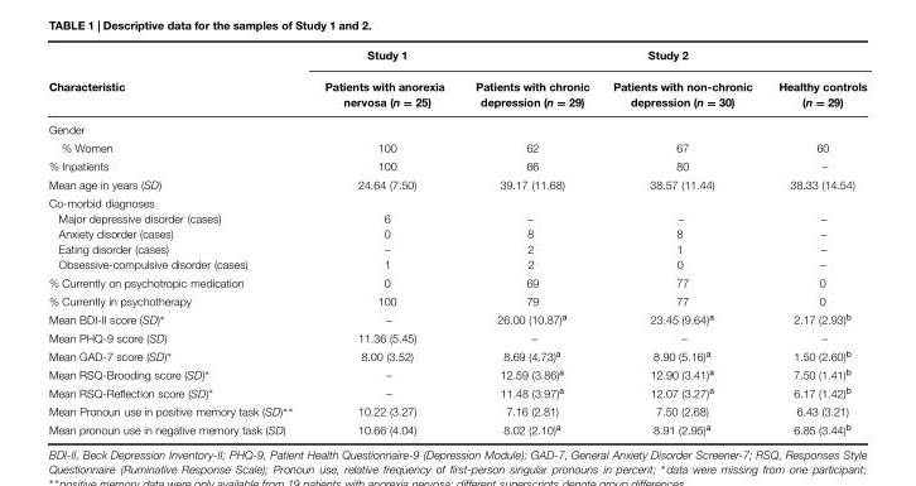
<table><thead><tr><td rowspan="2">Characteristic</td><td rowspan="2">Study 1 Patients with anorexia nervosa (n = 25)</td><td colspan="3">Study 2</td></tr><tr><td>Patients with chronic depression (n = 29)</td><td>Patients with non-chronic depression (n = 30)</td><td>Healthy controls (n = 29)</td></tr></thead><tbody><tr><td colspan="5">Gender</td></tr><tr><td>% Women</td><td>100</td><td>62</td><td>67</td><td>60</td></tr><tr><td>% Inpatients</td><td>100</td><td>66</td><td>80</td><td>–</td></tr><tr><td>Mean age in years (SD)</td><td>24.64 (7.50)</td><td>39.17 (11.68)</td><td>38.57 (11.44)</td><td>38.33 (14.54)</td></tr><tr><td>Co-morbid diagnoses Major depressive disorder (cases) Anxiety disorder (cases) Eating disorder (cases) Obsessive-compulsive disorder (cases)</td><td>6 0 – 1</td><td>– 8 2 2</td><td>– 8 1 0</td><td>– – – –</td></tr><tr><td>% Currently on psychotropic medication</td><td>0</td><td>69</td><td>77</td><td>0</td></tr><tr><td>% Currently in psychotherapy</td><td>100</td><td>79</td><td>77</td><td>0</td></tr><tr><td>Mean BDI-II score (SD)∗</td><td>–</td><td>26.00 (10.87)<sup>a</sup></td><td>23.45 (9.64)<sup>a</sup></td><td>2.17 (2.93)<sup>b</sup></td></tr><tr><td>Mean PHQ-9 score (SD)</td><td>11.36 (5.45)</td><td>–</td><td>–</td><td>–</td></tr><tr><td>Mean GAD-7 score (SD)∗</td><td>8.00 (3.52)</td><td>8.69 (4.73)<sup>a</sup></td><td>8.90 (5.16)<sup>a</sup></td><td>1.50 (2.60)<sup>b</sup></td></tr><tr><td>Mean RSQ-Brooding score (SD)∗</td><td>–</td><td>12.59 (3.86)<sup>a</sup></td><td>12.90 (3.41)<sup>a</sup></td><td>7.50 (1.41)<sup>b</sup></td></tr><tr><td>Mean RSQ-Reflection score (SD)∗</td><td>–</td><td>11.48 (3.97)<sup>a</sup></td><td>12.07 (3.27)<sup>a</sup></td><td>6.17 (1.42)<sup>b</sup></td></tr><tr><td>Mean Pronoun use in positive memory task (SD)∗∗</td><td>10.22 (3.27)</td><td>7.16 (2.81)</td><td>7.50 (2.68)</td><td>6.43 (3.21)</td></tr><tr><td>Mean pronoun use in negative memory task (SD)</td><td>10.66 (4.04)</td><td>8.02 (2.10)<sup>a</sup></td><td>8.91 (2.95)<sup>a</sup></td><td>6.85 (3.44)<sup>b</sup></td></tr></tbody></table>